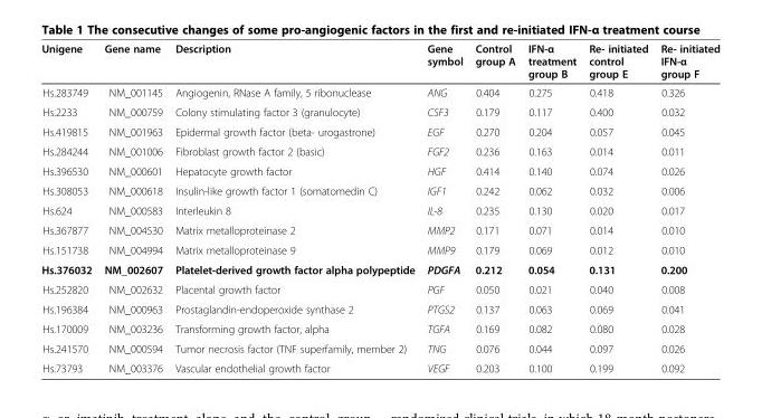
<table><thead><tr><td>Unigene</td><td>Gene name</td><td>Description</td><td>Gene symbol</td><td>Control group A</td><td>IFN-α treatment group B</td><td>Re- initiated control group E</td><td>Re- initiated IFN-α group F</td></tr></thead><tbody><tr><td>Hs.283749</td><td>NM_001145</td><td>Angiogenin, RNase A family, 5 ribonuclease</td><td>ANG</td><td>0.404</td><td>0.275</td><td>0.418</td><td>0.326</td></tr><tr><td>Hs.2233</td><td>NM_000759</td><td>Colony stimulating factor 3 (granulocyte)</td><td>CSF3</td><td>0.179</td><td>0.117</td><td>0.400</td><td>0.032</td></tr><tr><td>Hs.419815</td><td>NM_001963</td><td>Epidermal growth factor (beta- urogastrone)</td><td>EGF</td><td>0.270</td><td>0.204</td><td>0.057</td><td>0.045</td></tr><tr><td>Hs.284244</td><td>NM_001006</td><td>Fibroblast growth factor 2 (basic)</td><td>FGF2</td><td>0.236</td><td>0.163</td><td>0.014</td><td>0.011</td></tr><tr><td>Hs.396530</td><td>NM_000601</td><td>Hepatocyte growth factor</td><td>HGF</td><td>0.414</td><td>0.140</td><td>0.074</td><td>0.026</td></tr><tr><td>Hs.308053</td><td>NM_000618</td><td>Insulin-like growth factor 1 (somatomedin C)</td><td>IGF1</td><td>0.242</td><td>0.062</td><td>0.032</td><td>0.006</td></tr><tr><td>Hs.624</td><td>NM_000583</td><td>Interleukin 8</td><td>IL-8</td><td>0.235</td><td>0.130</td><td>0.020</td><td>0.017</td></tr><tr><td>Hs.367877</td><td>NM_004530</td><td>Matrix metalloproteinase 2</td><td>MMP2</td><td>0.171</td><td>0.071</td><td>0.014</td><td>0.010</td></tr><tr><td>Hs.151738</td><td>NM_004994</td><td>Matrix metalloproteinase 9</td><td>MMP9</td><td>0.179</td><td>0.069</td><td>0.012</td><td>0.010</td></tr><tr><td>Hs.376032</td><td>NM_002607</td><td>Platelet-derived growth factor alpha polypeptide</td><td>PDGFA</td><td>0.212</td><td>0.054</td><td>0.131</td><td>0.200</td></tr><tr><td>Hs.252820</td><td>NM_002632</td><td>Placental growth factor</td><td>PGF</td><td>0.050</td><td>0.021</td><td>0.040</td><td>0.008</td></tr><tr><td>Hs.196384</td><td>NM_000963</td><td>Prostaglandin-endoperoxide synthase 2</td><td>PTGS2</td><td>0.137</td><td>0.063</td><td>0.069</td><td>0.041</td></tr><tr><td>Hs.170009</td><td>NM_003236</td><td>Transforming growth factor, alpha</td><td>TGFA</td><td>0.169</td><td>0.082</td><td>0.080</td><td>0.028</td></tr><tr><td>Hs.241570</td><td>NM_000594</td><td>Tumor necrosis factor (TNF superfamily, member 2)</td><td>TNG</td><td>0.076</td><td>0.044</td><td>0.097</td><td>0.026</td></tr><tr><td>Hs.73793</td><td>NM_003376</td><td>Vascular endothelial growth factor</td><td>VEGF</td><td>0.203</td><td>0.100</td><td>0.199</td><td>0.092</td></tr></tbody></table>